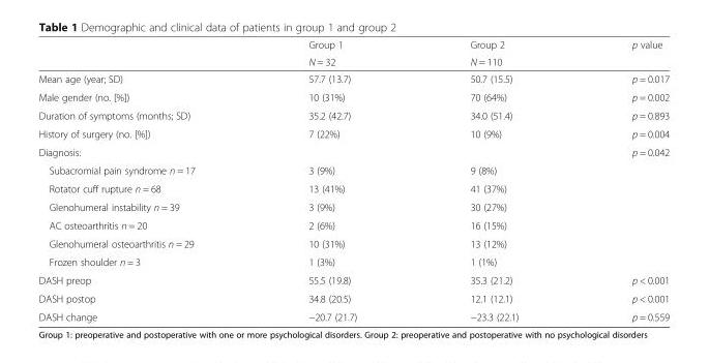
<table><thead><tr><td rowspan="2"></td><td rowspan="2">Group 1 N = 32</td><td rowspan="2">Group 2 N = 110</td><td rowspan="2">p value</td></tr><tr></tr></thead><tbody><tr><td>Mean age (year; SD)</td><td>57.7 (13.7)</td><td>50.7 (15.5)</td><td>p = 0.017</td></tr><tr><td>Male gender (no. [%])</td><td>10 (31%)</td><td>70 (64%)</td><td>p = 0.002</td></tr><tr><td>Duration of symptoms (months; SD)</td><td>35.2 (42.7)</td><td>34.0 (51.4)</td><td>p = 0.893</td></tr><tr><td>History of surgery (no. [%])</td><td>7 (22%)</td><td>10 (9%)</td><td>p = 0.004</td></tr><tr><td colspan="3">Diagnosis:</td><td rowspan="2">p = 0.042</td></tr><tr><td>Subacromial pain syndrome n = 17</td><td>3 (9%)</td><td>9 (8%)</td></tr><tr><td>Rotator cuff rupture n = 68</td><td>13 (41%)</td><td>41 (37%)</td><td></td></tr><tr><td>Glenohumeral instability n = 39</td><td>3 (9%)</td><td>30 (27%)</td><td></td></tr><tr><td>AC osteoarthritis n = 20</td><td>2 (6%)</td><td>16 (15%)</td><td></td></tr><tr><td>Glenohumeral osteoarthritis n = 29</td><td>10 (31%)</td><td>13 (12%)</td><td></td></tr><tr><td>Frozen shoulder n = 3</td><td>1 (3%)</td><td>1 (1%)</td><td></td></tr><tr><td>DASH preop</td><td>55.5 (19.8)</td><td>35.3 (21.2)</td><td>p &lt; 0.001</td></tr><tr><td>DASH postop</td><td>34.8 (20.5)</td><td>12.1 (12.1)</td><td>p &lt; 0.001</td></tr><tr><td>DASH change</td><td>−20.7 (21.7)</td><td>−23.3 (22.1)</td><td>p = 0.559</td></tr></tbody></table>